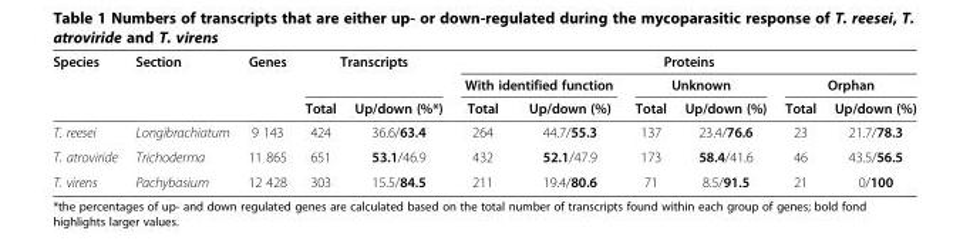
<table><thead><tr><td rowspan="3">Species</td><td rowspan="3">Section</td><td rowspan="3">Genes</td><td rowspan="2" colspan="2">Transcripts</td><td colspan="6">Proteins</td></tr><tr><td colspan="2">With identified function</td><td colspan="2">Unknown</td><td colspan="2">Orphan</td></tr><tr><td>Total</td><td>Up/down (%*)</td><td>Total</td><td>Up/down (%)</td><td>Total</td><td>Up/down (%)</td><td>Total</td><td>Up/down (%)</td></tr></thead><tbody><tr><td>T. reesei</td><td>Longibrachiatum</td><td>9 143</td><td>424</td><td>36.6/63.4</td><td>264</td><td>44.7/55.3</td><td>137</td><td>23.4/76.6</td><td>23</td><td>21.7/78.3</td></tr><tr><td>T. atroviride</td><td>Trichoderma</td><td>11 865</td><td>651</td><td>53.1/46.9</td><td>432</td><td>52.1/47.9</td><td>173</td><td>58.4/41.6</td><td>46</td><td>43.5/56.5</td></tr><tr><td>T. virens</td><td>Pachybasium</td><td>12 428</td><td>303</td><td>15.5/84.5</td><td>211</td><td>19.4/80.6</td><td>71</td><td>8.5/91.5</td><td>21</td><td>0/100</td></tr></tbody></table>